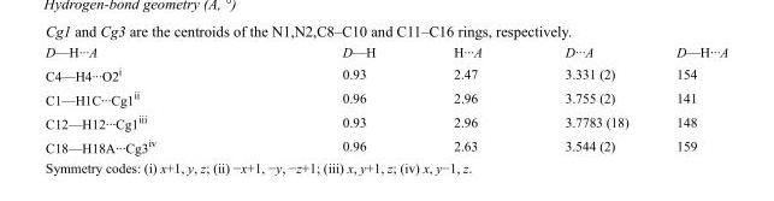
<table><tbody><tr><td>D—H···A</td><td>D—H</td><td>H···A</td><td>D···A</td><td>D—H···A</td></tr><tr><td>C4—H4···O2<sup>i</sup></td><td>0.93</td><td>2.47</td><td>3.331 (2)</td><td>154</td></tr><tr><td>C1—H1C···Cg1<sup>ii</sup></td><td>0.96</td><td>2.96</td><td>3.755 (2)</td><td>141</td></tr><tr><td>C12—H12···Cg1<sup>iii</sup></td><td>0.93</td><td>2.96</td><td>3.7783 (18)</td><td>148</td></tr><tr><td>C18—H18A···Cg3<sup>iv</sup></td><td>0.96</td><td>2.63</td><td>3.544 (2)</td><td>159</td></tr></tbody></table>